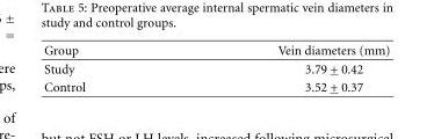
<table><thead><tr><td>Group</td><td>Vein diameters (mm)</td></tr></thead><tbody><tr><td>Study</td><td>3.79 + 0.42</td></tr><tr><td>Control</td><td>3.52 + 0.37</td></tr></tbody></table>